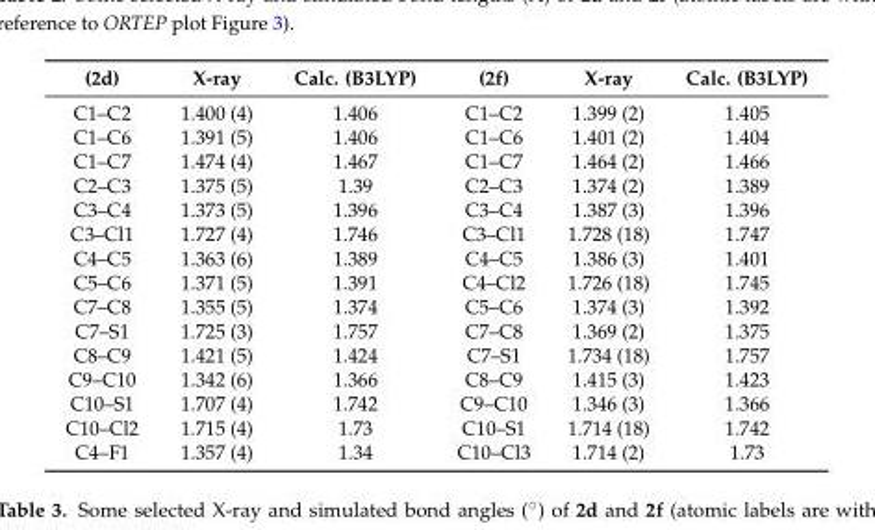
<table><thead><tr><td>(2d)</td><td>X-ray</td><td>Calc. (B3LYP)</td><td>(2f)</td><td>X-ray</td><td>Calc. (B3LYP)</td></tr></thead><tbody><tr><td>C1–C2</td><td>1.400 (4)</td><td>1.406</td><td>C1–C2</td><td>1.399 (2)</td><td>1.405</td></tr><tr><td>C1–C6</td><td>1.391 (5)</td><td>1.406</td><td>C1–C6</td><td>1.401 (2)</td><td>1.404</td></tr><tr><td>C1–C7</td><td>1.474 (4)</td><td>1.467</td><td>C1–C7</td><td>1.464 (2)</td><td>1.466</td></tr><tr><td>C2–C3</td><td>1.375 (5)</td><td>1.39</td><td>C2–C3</td><td>1.374 (2)</td><td>1.389</td></tr><tr><td>C3–C4</td><td>1.373 (5)</td><td>1.396</td><td>C3–C4</td><td>1.387 (3)</td><td>1.396</td></tr><tr><td>C3–Cl1</td><td>1.727 (4)</td><td>1.746</td><td>C3–Cl1</td><td>1.728 (18)</td><td>1.747</td></tr><tr><td>C4–C5</td><td>1.363 (6)</td><td>1.389</td><td>C4–C5</td><td>1.386 (3)</td><td>1.401</td></tr><tr><td>C5–C6</td><td>1.371 (5)</td><td>1.391</td><td>C4–Cl2</td><td>1.726 (18)</td><td>1.745</td></tr><tr><td>C7–C8</td><td>1.355 (5)</td><td>1.374</td><td>C5–C6</td><td>1.374 (3)</td><td>1.392</td></tr><tr><td>C7–S1</td><td>1.725 (3)</td><td>1.757</td><td>C7–C8</td><td>1.369 (2)</td><td>1.375</td></tr><tr><td>C8–C9</td><td>1.421 (5)</td><td>1.424</td><td>C7–S1</td><td>1.734 (18)</td><td>1.757</td></tr><tr><td>C9–C10</td><td>1.342 (6)</td><td>1.366</td><td>C8–C9</td><td>1.415 (3)</td><td>1.423</td></tr><tr><td>C10–S1</td><td>1.707 (4)</td><td>1.742</td><td>C9–C10</td><td>1.346 (3)</td><td>1.366</td></tr><tr><td>C10–Cl2</td><td>1.715 (4)</td><td>1.73</td><td>C10–S1</td><td>1.714 (18)</td><td>1.742</td></tr><tr><td>C4–F1</td><td>1.357 (4)</td><td>1.34</td><td>C10–Cl3</td><td>1.714 (2)</td><td>1.73</td></tr></tbody></table>